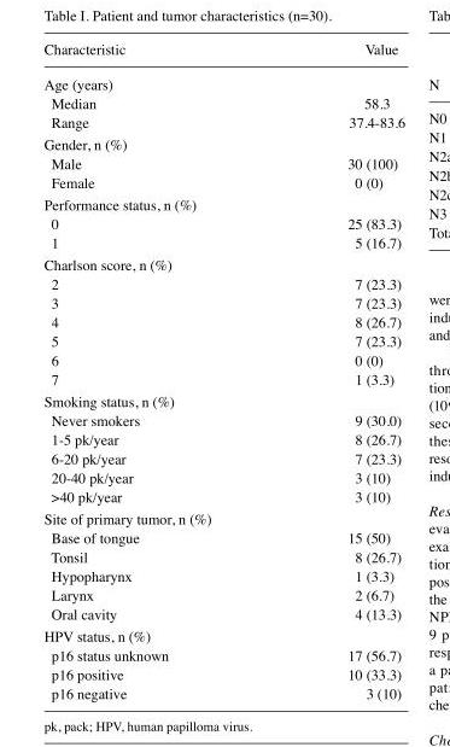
<table><thead><tr><td>Characteristic</td><td>Value</td></tr></thead><tbody><tr><td colspan="2">Age (years)</td></tr><tr><td>Median</td><td>58.3</td></tr><tr><td>Range</td><td>37.4-83.6</td></tr><tr><td colspan="2">Gender, n (%)</td></tr><tr><td>Male</td><td>30 (100)</td></tr><tr><td>Female</td><td>0 (0)</td></tr><tr><td colspan="2">Performance status, n (%)</td></tr><tr><td>0</td><td>25 (83.3)</td></tr><tr><td>1</td><td>5 (16.7)</td></tr><tr><td colspan="2">Charlson score, n (%)</td></tr><tr><td>2</td><td>7 (23.3)</td></tr><tr><td>3</td><td>7 (23.3)</td></tr><tr><td>4</td><td>8 (26.7)</td></tr><tr><td>5</td><td>7 (23.3)</td></tr><tr><td>6</td><td>0 (0)</td></tr><tr><td>7</td><td>1 (3.3)</td></tr><tr><td colspan="2">Smoking status, n (%)</td></tr><tr><td>Never smokers</td><td>9 (30.0)</td></tr><tr><td>1-5 pk/year</td><td>8 (26.7)</td></tr><tr><td>6-20 pk/year</td><td>7 (23.3)</td></tr><tr><td>20-40 pk/year</td><td>3 (10)</td></tr><tr><td>&gt;40 pk/year</td><td>3 (10)</td></tr><tr><td colspan="2">Site of primary tumor, n (%)</td></tr><tr><td>Base of tongue</td><td>15 (50)</td></tr><tr><td>Tonsil</td><td>8 (26.7)</td></tr><tr><td>Hypopharynx</td><td>1 (3.3)</td></tr><tr><td>Larynx</td><td>2 (6.7)</td></tr><tr><td>Oral cavity</td><td>4 (13.3)</td></tr><tr><td colspan="2">HPV status, n (%)</td></tr><tr><td>p16 status unknown</td><td>17 (56.7)</td></tr><tr><td>p16 positive</td><td>10 (33.3)</td></tr><tr><td>p16 negative</td><td>3 (10)</td></tr></tbody></table>